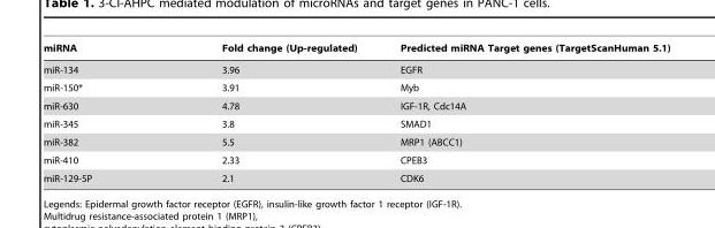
<table><thead><tr><td>miRNA</td><td>Fold change (Up-regulated)</td><td>Predicted miRNA Target genes (TargetScanHuman 5.1)</td></tr></thead><tbody><tr><td>miR-134</td><td>3.96</td><td>EGFR</td></tr><tr><td>miR-150*</td><td>3.91</td><td>Myb</td></tr><tr><td>miR-630</td><td>4.78</td><td>IGF-1R, Cdc14A</td></tr><tr><td>miR-345</td><td>3.8</td><td>SMAD1</td></tr><tr><td>miR-382</td><td>5.5</td><td>MRP1 (ABCC1)</td></tr><tr><td>miR-410</td><td>2.33</td><td>CPEB3</td></tr><tr><td>miR-129-5P</td><td>2.1</td><td>CDK6</td></tr></tbody></table>